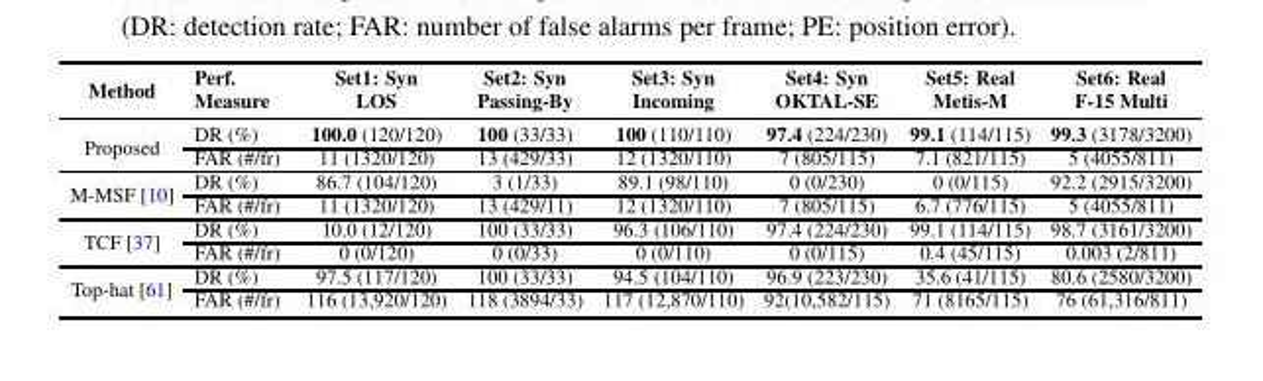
<table><thead><tr><td>Method</td><td>Perf. Measure</td><td>Set1: Syn LOS</td><td>Set2: Syn Passing-By</td><td>Set3: Syn Incoming</td><td>Set4: Syn OKTAL-SE</td><td>Set5: Real Metis-M</td><td>Set6: Real F-15 Multi</td></tr></thead><tbody><tr><td rowspan="2">Proposed</td><td>DR (%)</td><td>100.0 (120/120)</td><td>100 (33/33)</td><td>100 (110/110)</td><td>97.4 (224/230)</td><td>99.1 (114/115)</td><td>99.3 (3178/3200)</td></tr><tr><td>FAR (#/fr)</td><td>11 (1320/120)</td><td>13 (429/33)</td><td>12 (1320/110)</td><td>7 (805/115)</td><td>7.1 (821/115)</td><td>5 (4055/811)</td></tr><tr><td rowspan="2">M-MSF [10]</td><td>DR (%)</td><td>86.7 (104/120)</td><td>3 (1/33)</td><td>89.1 (98/110)</td><td>0 (0/230)</td><td>0 (0/115)</td><td>92.2 (2915/3200)</td></tr><tr><td>FAR (#/fr)</td><td>11 (1320/120)</td><td>13 (429/11)</td><td>12 (1320/110)</td><td>7 (805/115)</td><td>6.7 (776/115)</td><td>5 (4055/811)</td></tr><tr><td rowspan="2">TCF [37]</td><td>DR (%)</td><td>10.0 (12/120)</td><td>100 (33/33)</td><td>96.3 (106/110)</td><td>97.4 (224/230)</td><td>99.1 (114/115)</td><td>98.7 (3161/3200)</td></tr><tr><td>FAR (#/fr)</td><td>0 (0/120)</td><td>0 (0/33)</td><td>0 (0/110)</td><td>0 (0/115)</td><td>0.4 (45/115)</td><td>0.003 (2/811)</td></tr><tr><td rowspan="2">Top-hat [61]</td><td>DR (%)</td><td>97.5 (117/120)</td><td>100 (33/33)</td><td>94.5 (104/110)</td><td>96.9 (223/230)</td><td>35.6 (41/115)</td><td>80.6 (2580/3200)</td></tr><tr><td>FAR (#/fr)</td><td>116 (13,920/120)</td><td>118 (3894/33)</td><td>117 (12,870/110)</td><td>92(10,582/115)</td><td>71 (8165/115)</td><td>76 (61,316/811)</td></tr></tbody></table>